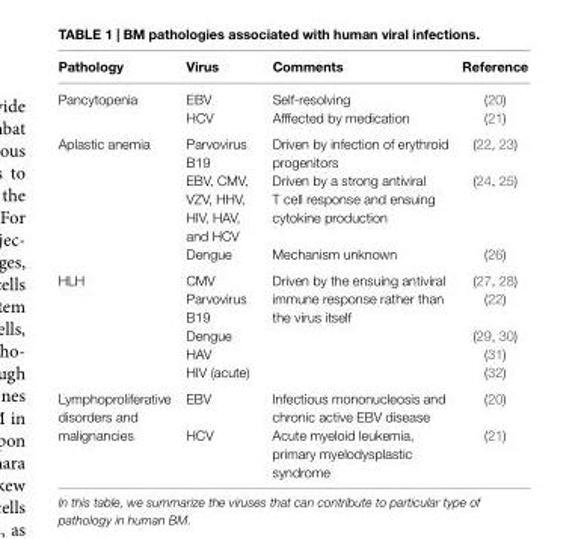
<table><thead><tr><td>Pathology</td><td>virus</td><td>Comments</td><td>Reference</td></tr></thead><tbody><tr><td rowspan="2">Pancytopenia</td><td>EBV</td><td>Self-resolving</td><td>(20)</td></tr><tr><td>HCV</td><td>Afffected by medication</td><td>(21)</td></tr><tr><td rowspan="3">Aplastic anemia</td><td>Parvovirus B19</td><td>Driven by infection of erythroid progenitors</td><td>(22, 23)</td></tr><tr><td>EBV, CMV, VZV, HHV, HIV, HAV, and HCV</td><td>Driven by a strong antiviral T cell response and ensuing cytokine production</td><td>(24, 25)</td></tr><tr><td>Dengue</td><td>Mechanism unknown</td><td>(26)</td></tr><tr><td rowspan="5">HLH</td><td>CMV</td><td rowspan="5">Driven by the ensuing antiviral immune response rather than the virus itself</td><td>(27, 28)</td></tr><tr><td>Parvovirus B19</td><td>(22)</td></tr><tr><td>Dengue</td><td>(29, 30)</td></tr><tr><td>HAV</td><td>(31)</td></tr><tr><td>HIV (acute)</td><td>(32)</td></tr><tr><td rowspan="2">Lymphoproliferative disorders and malignancies</td><td>EBV</td><td>Infectious mononucleosis and chronic active EBV disease</td><td>(20)</td></tr><tr><td>HCV</td><td>Acute myeloid leukemia, primary myelodysplastic syndrome</td><td>(21)</td></tr></tbody></table>